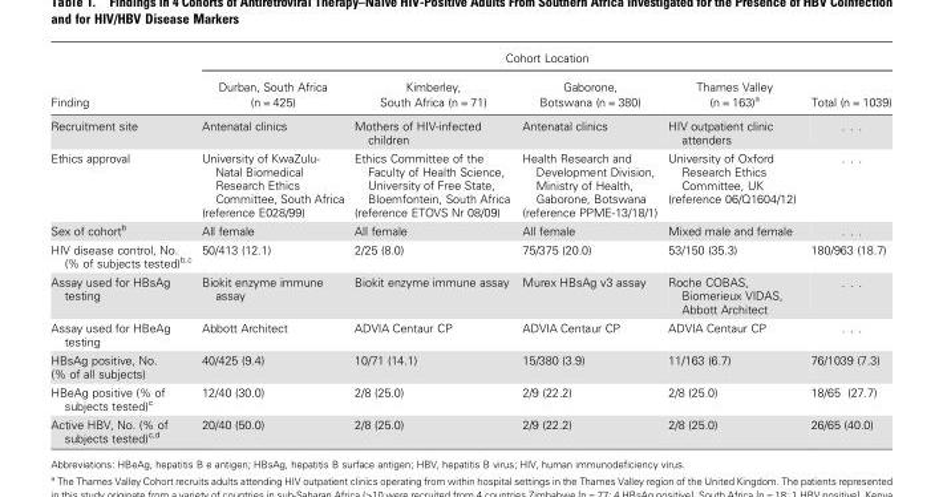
<table><thead><tr><td rowspan="2">Finding</td><td colspan="5">Cohort Location</td></tr><tr><td>Durban, South Africa (n = 425)</td><td>Kimberley, South Africa (n = 71)</td><td>Gaborone, Botswana (n = 380)</td><td>Thames Valley (n = 163)<sup>a</sup></td><td>Total (n = 1039)</td></tr></thead><tbody><tr><td>Recruitment site</td><td>Antenatal clinics</td><td>Mothers of HIV-infected children</td><td>Antenatal clinics</td><td>HIV outpatient clinic attenders</td><td>. . .</td></tr><tr><td>Ethics approval</td><td>University of KwaZulu- Natal Biomedical Research Ethics Committee, South Africa (reference E028/99)</td><td>Ethics Committee of the Faculty of Health Science, University of Free State, Bloemfontein, South Africa (reference ETOVS Nr 08/09)</td><td>Health Research and Development Division, Ministry of Health, Gaborone, Botswana (reference PPME-13/18/1)</td><td>University of Oxford Research Ethics Committee, UK (reference 06/Q1604/12)</td><td>. . .</td></tr><tr><td>Sex of cohort<sup>b</sup></td><td>All female</td><td>All female</td><td>All female</td><td>Mixed male and female</td><td>. . .</td></tr><tr><td>HIV disease control, No. (% of subjects tested)<sup>b,c</sup></td><td>50/413 (12.1)</td><td>2/25 (8.0)</td><td>75/375 (20.0)</td><td>53/150 (35.3)</td><td>180/963 (18.7)</td></tr><tr><td>Assay used for HBsAg testing</td><td>Biokit enzyme immune assay</td><td>Biokit enzyme immune assay</td><td>Murex HBsAg v3 assay</td><td>Roche COBAS, Biomerieux VIDAS, Abbott Architect</td><td>. . .</td></tr><tr><td>Assay used for HBeAg testing</td><td>Abbott Architect</td><td>ADVIA Centaur CP</td><td>ADVIA Centaur CP</td><td>ADVIA Centaur CP</td><td>. . .</td></tr><tr><td>HBsAg positive, No. (% of all subjects)</td><td>40/425 (9.4)</td><td>10/71 (14.1)</td><td>15/380 (3.9)</td><td>11/163 (6.7)</td><td>76/1039 (7.3)</td></tr><tr><td>HBeAg positive (% of subjects tested)<sup>c</sup></td><td>12/40 (30.0)</td><td>2/8 (25.0)</td><td>2/9 (22.2)</td><td>2/8 (25.0)</td><td>18/65 (27.7)</td></tr><tr><td>Active HBV, No. (% of subjects tested)<sup>c,d</sup></td><td>20/40 (50.0)</td><td>2/8 (25.0)</td><td>2/9 (22.2)</td><td>2/8 (25.0)</td><td>26/65 (40.0)</td></tr></tbody></table>